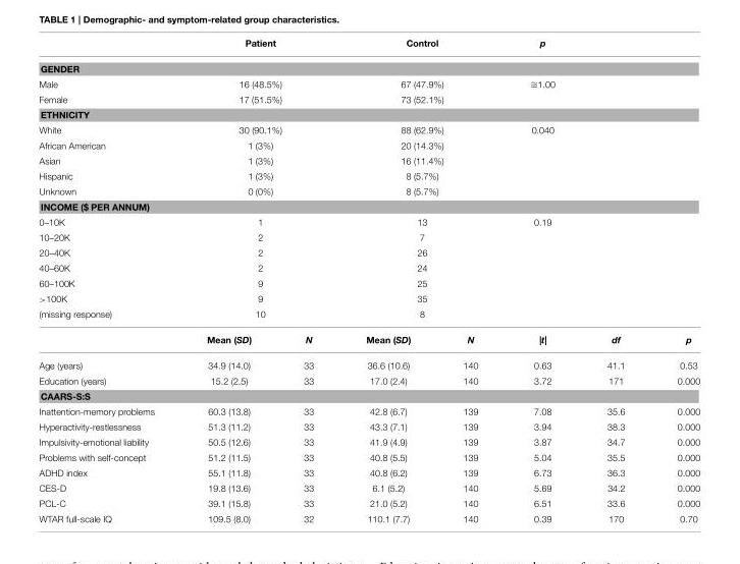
<table><thead><tr><td></td><td colspan="2">Patient</td><td colspan="2">Control</td><td>p</td><td></td><td></td></tr></thead><tbody><tr><td colspan="8">GENDER</td></tr><tr><td>Male</td><td colspan="2">16 (48.5%)</td><td colspan="2">67 (47.9%)</td><td>∼=1.00</td><td></td><td></td></tr><tr><td>Female</td><td colspan="2">17 (51.5%)</td><td colspan="2">73 (52.1%)</td><td></td><td></td><td></td></tr><tr><td colspan="8">ETHNICITY</td></tr><tr><td>White</td><td colspan="2">30 (90.1%)</td><td colspan="2">88 (62.9%)</td><td>0.040</td><td></td><td></td></tr><tr><td>African American</td><td colspan="2">1 (3%)</td><td colspan="2">20 (14.3%)</td><td></td><td></td><td></td></tr><tr><td>Asian</td><td colspan="2">1 (3%)</td><td colspan="2">16 (11.4%)</td><td></td><td></td><td></td></tr><tr><td>Hispanic</td><td colspan="2">1 (3%)</td><td colspan="2">8 (5.7%)</td><td></td><td></td><td></td></tr><tr><td>Unknown</td><td colspan="2">0 (0%)</td><td colspan="2">8 (5.7%)</td><td></td><td></td><td></td></tr><tr><td colspan="8">INCOME ($ PER ANNUM)</td></tr><tr><td>0–10K</td><td colspan="2">1</td><td colspan="2">13</td><td>0.19</td><td></td><td></td></tr><tr><td>10–20K</td><td colspan="2">2</td><td colspan="2">7</td><td></td><td></td><td></td></tr><tr><td>20–40K</td><td colspan="2">2</td><td colspan="2">26</td><td></td><td></td><td></td></tr><tr><td>40–60K</td><td colspan="2">2</td><td colspan="2">24</td><td></td><td></td><td></td></tr><tr><td>60–100K</td><td colspan="2">9</td><td colspan="2">25</td><td></td><td></td><td></td></tr><tr><td>&gt;100K</td><td colspan="2">9</td><td colspan="2">35</td><td></td><td></td><td></td></tr><tr><td rowspan="2">(missing response)</td><td colspan="2">10</td><td colspan="2">8</td><td></td><td></td><td></td></tr><tr><td>Mean (SD)</td><td>N</td><td>Mean (SD)</td><td>N</td><td>|t|</td><td>df</td><td>p</td></tr><tr><td>Age (years)</td><td>34.9 (14.0)</td><td>33</td><td>36.6 (10.6)</td><td>140</td><td>0.63</td><td>41.1</td><td>0.53</td></tr><tr><td>Education (years)</td><td>15.2 (2.5)</td><td>33</td><td>17.0 (2.4)</td><td>140</td><td>3.72</td><td>171</td><td>0.000</td></tr><tr><td colspan="8">CAARS-S:S</td></tr><tr><td>Inattention-memory problems</td><td>60.3 (13.8)</td><td>33</td><td>42.8 (6.7)</td><td>139</td><td>7.08</td><td>35.6</td><td>0.000</td></tr><tr><td>Hyperactivity-restlessness</td><td>51.3 (11.2)</td><td>33</td><td>43.3 (7.1)</td><td>139</td><td>3.94</td><td>38.3</td><td>0.000</td></tr><tr><td>Impulsivity-emotional liability</td><td>50.5 (12.6)</td><td>33</td><td>41.9 (4.9)</td><td>139</td><td>3.87</td><td>34.7</td><td>0.000</td></tr><tr><td>Problems with self-concept</td><td>51.2 (11.5)</td><td>33</td><td>40.8 (5.5)</td><td>139</td><td>5.04</td><td>35.5</td><td>0.000</td></tr><tr><td>ADHD index</td><td>55.1 (11.8)</td><td>33</td><td>40.8 (6.2)</td><td>139</td><td>6.73</td><td>36.3</td><td>0.000</td></tr><tr><td>CES-D</td><td>19.8 (13.6)</td><td>33</td><td>6.1 (5.2)</td><td>140</td><td>5.69</td><td>34.2</td><td>0.000</td></tr><tr><td>PCL-C</td><td>39.1 (15.8)</td><td>33</td><td>21.0 (5.2)</td><td>140</td><td>6.51</td><td>33.6</td><td>0.000</td></tr><tr><td>WTAR full-scale IQ</td><td>109.5 (8.0)</td><td>32</td><td>110.1 (7.7)</td><td>140</td><td>0.39</td><td>170</td><td>0.70</td></tr></tbody></table>